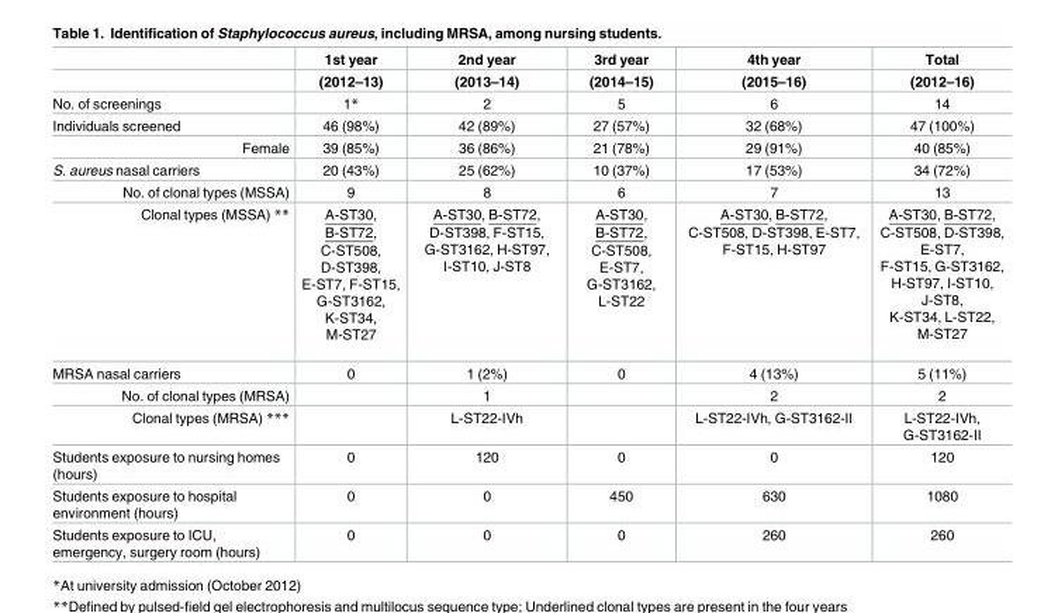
<table><thead><tr><td rowspan="2"></td><td rowspan="2">1st year (2012–13)</td><td rowspan="2">2nd year (2013–14)</td><td rowspan="2">3rd year (2014–15)</td><td rowspan="2">4th year (2015–16)</td><td rowspan="2">Total (2012–16)</td></tr><tr></tr></thead><tbody><tr><td>No. of screenings</td><td>1*</td><td>2</td><td>5</td><td>6</td><td>14</td></tr><tr><td>Individuals screened</td><td>46 (98%)</td><td>42 (89%)</td><td>27 (57%)</td><td>32 (68%)</td><td>47 (100%)</td></tr><tr><td>Female</td><td>39 (85%)</td><td>36 (86%)</td><td>21 (78%)</td><td>29 (91%)</td><td>40 (85%)</td></tr><tr><td>S. aureus nasal carriers</td><td>20 (43%)</td><td>25 (62%)</td><td>10 (37%)</td><td>17 (53%)</td><td>34 (72%)</td></tr><tr><td>No. of clonal types (MSSA)</td><td>9</td><td>8</td><td>6</td><td>7</td><td>13</td></tr><tr><td>Clonal types (MSSA) **</td><td>A-ST30, B-ST72, C-ST508, D-ST398, E-ST7, F-ST15, G-ST3162, K-ST34, M-ST27</td><td>A-ST30, B-ST72, D-ST398, F-ST15, G-ST3162, H-ST97, I-ST10, J-ST8</td><td>A-ST30, B-ST72, C-ST508, E-ST7, G-ST3162, L-ST22</td><td>A-ST30, B-ST72, C-ST508, D-ST398, E-ST7, F-ST15, H-ST97</td><td>A-ST30, B-ST72, C-ST508, D-ST398, E-ST7, F-ST15, G-ST3162, H-ST97, I-ST10, J-ST8, K-ST34, L-ST22, M-ST27</td></tr><tr><td>MRSA nasal carriers</td><td>0</td><td>1 (2%)</td><td>0</td><td>4 (13%)</td><td>5 (11%)</td></tr><tr><td>No. of clonal types (MRSA)</td><td></td><td>1</td><td></td><td>2</td><td>2</td></tr><tr><td>Clonal types (MRSA) ***</td><td></td><td>L-ST22-IVh</td><td></td><td>L-ST22-IVh, G-ST3162-II</td><td>L-ST22-IVh, G-ST3162-II</td></tr><tr><td>Students exposure to nursing homes (hours)</td><td>0</td><td>120</td><td>0</td><td>0</td><td>120</td></tr><tr><td>Students exposure to hospital environment (hours)</td><td>0</td><td>0</td><td>450</td><td>630</td><td>1080</td></tr><tr><td>Students exposure to ICU, emergency, surgery room (hours)</td><td>0</td><td>0</td><td>0</td><td>260</td><td>260</td></tr></tbody></table>